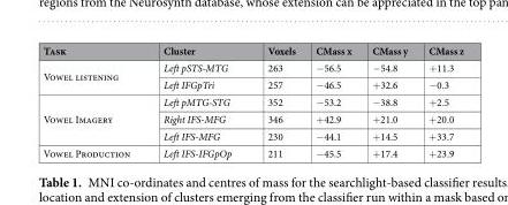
<table><thead><tr><td>Task</td><td>Cluster</td><td>Voxels</td><td>CMass x</td><td>CMass y</td><td>CMass z</td></tr></thead><tbody><tr><td rowspan="2">Vowel listening</td><td>Left pSTS-MTG</td><td>263</td><td>−56.5</td><td>−54.8</td><td>+11.3</td></tr><tr><td>Left IFGpTri</td><td>257</td><td>−46.5</td><td>+32.6</td><td>−0.3</td></tr><tr><td rowspan="3">Vowel Imagery</td><td>Left pMTG-STG</td><td>352</td><td>−53.2</td><td>−38.8</td><td>+2.5</td></tr><tr><td>Right IFS-MFG</td><td>346</td><td>+42.9</td><td>+21.0</td><td>+20.0</td></tr><tr><td>Left IFS-MFG</td><td>230</td><td>−44.1</td><td>+14.5</td><td>+33.7</td></tr><tr><td>Vowel Production</td><td>Left IFS-IFGpOp</td><td>211</td><td>−45.5</td><td>+17.4</td><td>+23.9</td></tr></tbody></table>